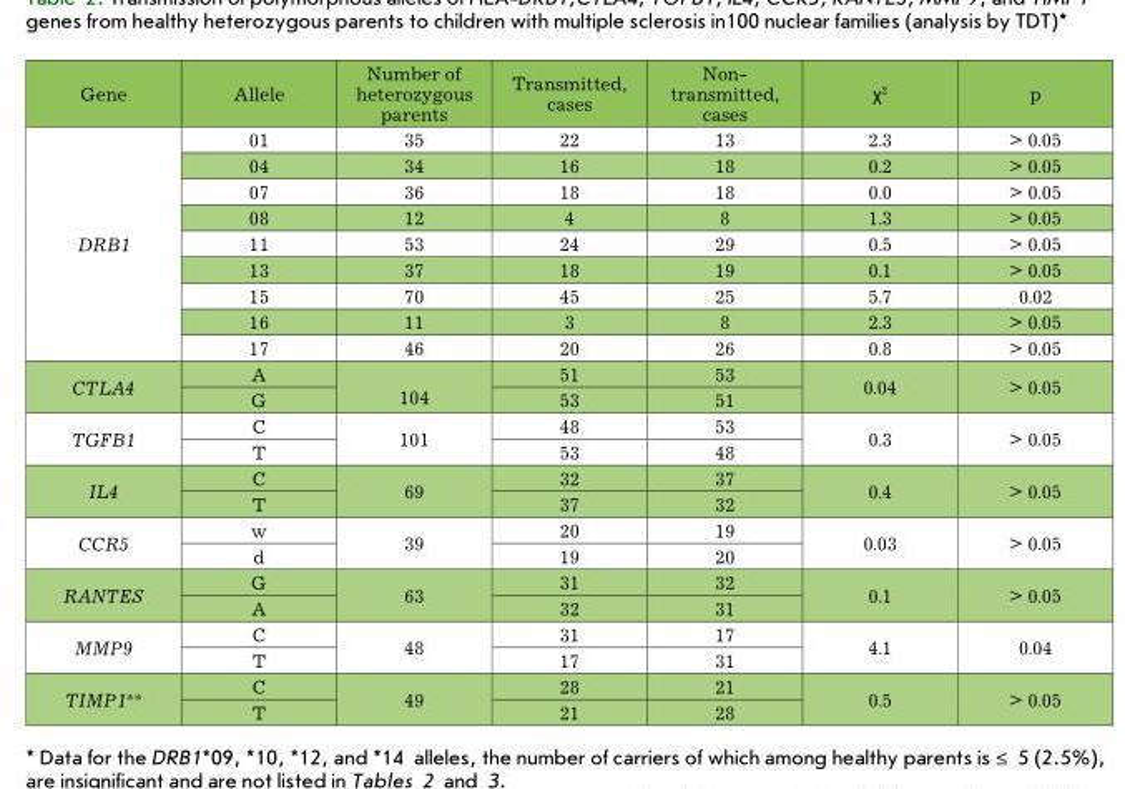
<table><thead><tr><td>Gene</td><td>Allele</td><td>Number of heterozygous parents</td><td>Transmitted, cases</td><td>Non- transmitted, cases</td><td>χ<sup>2</sup></td><td>p</td></tr></thead><tbody><tr><td rowspan="9">DRB1</td><td>01</td><td>35</td><td>22</td><td>13</td><td>2.3</td><td>&gt; 0.05</td></tr><tr><td>04</td><td>34</td><td>16</td><td>18</td><td>0.2</td><td>&gt; 0.05</td></tr><tr><td>07</td><td>36</td><td>18</td><td>18</td><td>0.0</td><td>&gt; 0.05</td></tr><tr><td>08</td><td>12</td><td>4</td><td>8</td><td>1.3</td><td>&gt; 0.05</td></tr><tr><td>11</td><td>53</td><td>24</td><td>29</td><td>0.5</td><td>&gt; 0.05</td></tr><tr><td>13</td><td>37</td><td>18</td><td>19</td><td>0.1</td><td>&gt; 0.05</td></tr><tr><td>15</td><td>70</td><td>45</td><td>25</td><td>5.7</td><td>0.02</td></tr><tr><td>16</td><td>11</td><td>3</td><td>8</td><td>2.3</td><td>&gt; 0.05</td></tr><tr><td>17</td><td>46</td><td>20</td><td>26</td><td>0.8</td><td>&gt; 0.05</td></tr><tr><td rowspan="2">CTLA4</td><td>A</td><td rowspan="2">104</td><td>51</td><td>53</td><td rowspan="2">0.04</td><td rowspan="2">&gt; 0.05</td></tr><tr><td>G</td><td>53</td><td>51</td></tr><tr><td rowspan="2">TGFB1</td><td>C</td><td rowspan="2">101</td><td>48</td><td>53</td><td rowspan="2">0.3</td><td rowspan="2">&gt; 0.05</td></tr><tr><td>T</td><td>53</td><td>48</td></tr><tr><td rowspan="2">IL4</td><td>C</td><td rowspan="2">69</td><td>32</td><td>37</td><td rowspan="2">0.4</td><td rowspan="2">&gt; 0.05</td></tr><tr><td>T</td><td>37</td><td>32</td></tr><tr><td rowspan="2">CCR5</td><td>w</td><td rowspan="2">39</td><td>20</td><td>19</td><td rowspan="2">0.03</td><td rowspan="2">&gt; 0.05</td></tr><tr><td>d</td><td>19</td><td>20</td></tr><tr><td rowspan="2">RANTES</td><td>G</td><td rowspan="2">63</td><td>31</td><td>32</td><td rowspan="2">0.1</td><td rowspan="2">&gt; 0.05</td></tr><tr><td>A</td><td>32</td><td>31</td></tr><tr><td rowspan="2">MMP9</td><td>C</td><td rowspan="2">48</td><td>31</td><td>17</td><td rowspan="2">4.1</td><td rowspan="2">0.04</td></tr><tr><td>T</td><td>17</td><td>31</td></tr><tr><td rowspan="2">TIMP1**</td><td>C</td><td rowspan="2">49</td><td>28</td><td>21</td><td rowspan="2">0.5</td><td rowspan="2">&gt; 0.05</td></tr><tr><td>T</td><td>21</td><td>28</td></tr></tbody></table>